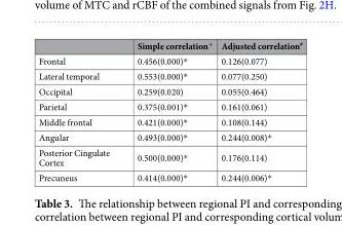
<table><thead><tr><td></td><td>Simple correlation<sup>+</sup></td><td>Adjusted correlation<sup>#</sup></td></tr></thead><tbody><tr><td>Frontal</td><td>0.456(0.000)*</td><td>0.126(0.077)</td></tr><tr><td>Lateral temporal</td><td>0.553(0.000)*</td><td>0.077(0.250)</td></tr><tr><td>Occipital</td><td>0.259(0.020)</td><td>0.055(0.464)</td></tr><tr><td>Parietal</td><td>0.375(0.001)*</td><td>0.161(0.061)</td></tr><tr><td>Middle frontal</td><td>0.421(0.000)*</td><td>0.108(0.144)</td></tr><tr><td>Angular</td><td>0.493(0.000)*</td><td>0.244(0.008)*</td></tr><tr><td>Posterior Cingulate Cortex</td><td>0.500(0.000)*</td><td>0.176(0.114)</td></tr><tr><td>Precuneus</td><td>0.414(0.000)*</td><td>0.244(0.006)*</td></tr></tbody></table>